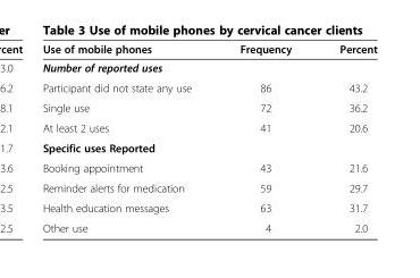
<table><thead><tr><td>Use of mobile phones</td><td>Frequency</td><td>Percent</td></tr></thead><tbody><tr><td colspan="3">Number of reported uses</td></tr><tr><td>Participant did not state any use</td><td>86</td><td>43.2</td></tr><tr><td>Single use</td><td>72</td><td>36.2</td></tr><tr><td>At least 2 uses</td><td>41</td><td>20.6</td></tr><tr><td colspan="3">Specific uses Reported</td></tr><tr><td>Booking appointment</td><td>43</td><td>21.6</td></tr><tr><td>Reminder alerts for medication</td><td>59</td><td>29.7</td></tr><tr><td>Health education messages</td><td>63</td><td>31.7</td></tr><tr><td>Other use</td><td>4</td><td>2.0</td></tr></tbody></table>